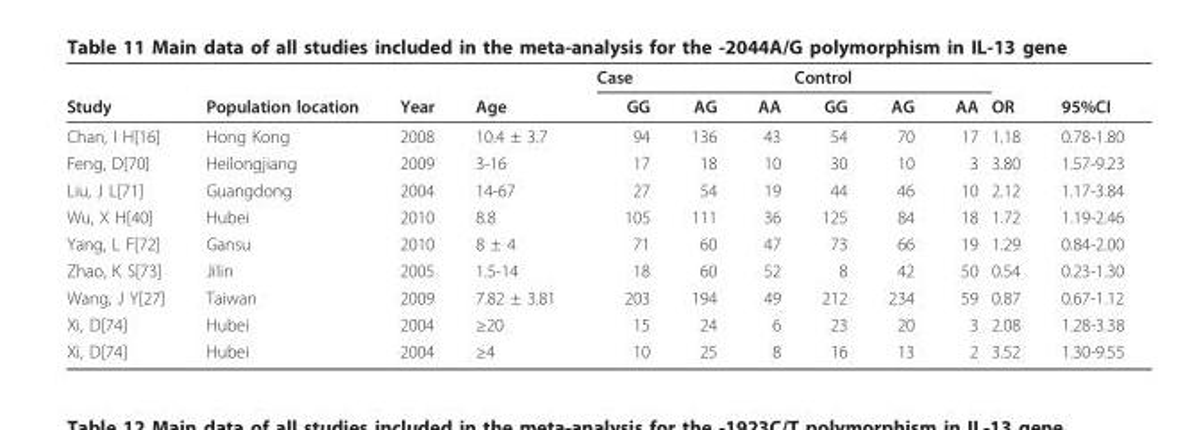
<table><thead><tr><td rowspan="2">Study</td><td rowspan="2">Population location</td><td rowspan="2">Year</td><td rowspan="2">Age</td><td colspan="3">Case</td><td colspan="3">Control</td><td rowspan="2">OR</td><td rowspan="2">95%CI</td></tr><tr><td>GG</td><td>AG</td><td>AA</td><td>GG</td><td>AG</td><td>AA</td></tr></thead><tbody><tr><td>Chan, I H[16]</td><td>Hong Kong</td><td>2008</td><td>10.4 ± 3.7</td><td>94</td><td>136</td><td>43</td><td>54</td><td>70</td><td>17</td><td>1.18</td><td>0.78-1.80</td></tr><tr><td>Feng, D[70]</td><td>Heilongjiang</td><td>2009</td><td>3-16</td><td>17</td><td>18</td><td>10</td><td>30</td><td>10</td><td>3</td><td>3.80</td><td>1.57-9.23</td></tr><tr><td>Liu, J L[71]</td><td>Guangdong</td><td>2004</td><td>14-67</td><td>27</td><td>54</td><td>19</td><td>44</td><td>46</td><td>10</td><td>2.12</td><td>1.17-3.84</td></tr><tr><td>Wu, X H[40]</td><td>Hubei</td><td>2010</td><td>8.8</td><td>105</td><td>111</td><td>36</td><td>125</td><td>84</td><td>18</td><td>1.72</td><td>1.19-2.46</td></tr><tr><td>Yang, L F[72]</td><td>Gansu</td><td>2010</td><td>8 ± 4</td><td>71</td><td>60</td><td>47</td><td>73</td><td>66</td><td>19</td><td>1.29</td><td>0.84-2.00</td></tr><tr><td>Zhao, K S[73]</td><td>Jilin</td><td>2005</td><td>1.5-14</td><td>18</td><td>60</td><td>52</td><td>8</td><td>42</td><td>50</td><td>0.54</td><td>0.23-1.30</td></tr><tr><td>Wang, J Y[27]</td><td>Taiwan</td><td>2009</td><td>7.82 ± 3.81</td><td>203</td><td>194</td><td>49</td><td>212</td><td>234</td><td>59</td><td>0.87</td><td>0.67-1.12</td></tr><tr><td>Xi, D[74]</td><td>Hubei</td><td>2004</td><td>≥20</td><td>15</td><td>24</td><td>6</td><td>23</td><td>20</td><td>3</td><td>2.08</td><td>1.28-3.38</td></tr><tr><td>Xi, D[74]</td><td>Hubei</td><td>2004</td><td>≥4</td><td>10</td><td>25</td><td>8</td><td>16</td><td>13</td><td>2</td><td>3.52</td><td>1.30-9.55</td></tr></tbody></table>